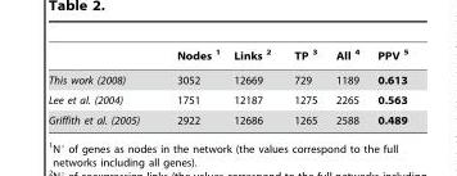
<table><thead><tr><td></td><td>Nodes 1</td><td>Links 2</td><td>TP 3</td><td>All 4</td><td>PPV 5</td></tr></thead><tbody><tr><td>This work (2008)</td><td>3052</td><td>12669</td><td>729</td><td>1189</td><td>0.613</td></tr><tr><td>Lee et al. (2004)</td><td>1751</td><td>12187</td><td>1275</td><td>2265</td><td>0.563</td></tr><tr><td>Griffith et al. (2005)</td><td>2922</td><td>12686</td><td>1265</td><td>2588</td><td>0.489</td></tr></tbody></table>